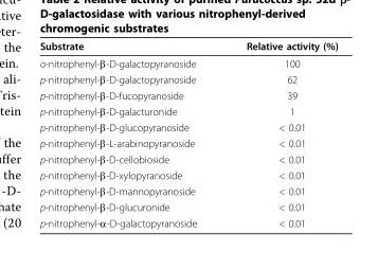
<table><thead><tr><td>Substrate</td><td>Relative activity (%)</td></tr></thead><tbody><tr><td>o-nitrophenyl-β-D-galactopyranoside</td><td>100</td></tr><tr><td>p-nitrophenyl-β-D-galactopyranoside</td><td>62</td></tr><tr><td>p-nitrophenyl-β-D-fucopyranoside</td><td>39</td></tr><tr><td>p-nitrophenyl-β-D-galacturonide</td><td>1</td></tr><tr><td>p-nitrophenyl-β-D-glucopyranoside</td><td>&lt; 0.01</td></tr><tr><td>p-nitrophenyl-β-L-arabinopyranoside</td><td>&lt; 0.01</td></tr><tr><td>p-nitrophenyl-β-D-cellobioside</td><td>&lt; 0.01</td></tr><tr><td>p-nitrophenyl-β-D-xylopyranoside</td><td>&lt; 0.01</td></tr><tr><td>p-nitrophenyl-β-D-mannopyranoside</td><td>&lt; 0.01</td></tr><tr><td>p-nitrophenyl-β-D-glucuronide</td><td>&lt; 0.01</td></tr><tr><td>p-nitrophenyl-α-D-galactopyranoside</td><td>&lt; 0.01</td></tr></tbody></table>